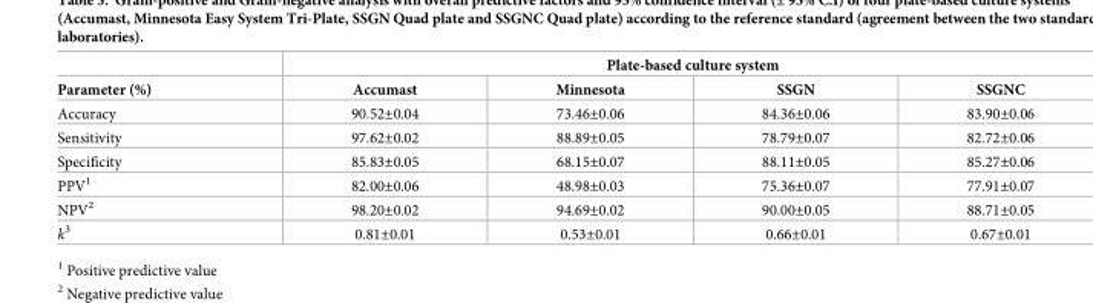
<table><thead><tr><td rowspan="2">Parameter (%)</td><td colspan="4">Plate-based culture system</td></tr><tr><td>Accumast</td><td>Minnesota</td><td>SSGN</td><td>SSGNC</td></tr></thead><tbody><tr><td>Accuracy</td><td>90.52±0.04</td><td>73.46±0.06</td><td>84.36±0.06</td><td>83.90±0.06</td></tr><tr><td>Sensitivity</td><td>97.62±0.02</td><td>88.89±0.05</td><td>78.79±0.07</td><td>82.72±0.06</td></tr><tr><td>Specificity</td><td>85.83±0.05</td><td>68.15±0.07</td><td>88.11±0.05</td><td>85.27±0.06</td></tr><tr><td>PPV<sup>1</sup></td><td>82.00±0.06</td><td>48.98±0.03</td><td>75.36±0.07</td><td>77.91±0.07</td></tr><tr><td>NPV<sup>2</sup></td><td>98.20±0.02</td><td>94.69±0.02</td><td>90.00±0.05</td><td>88.71±0.05</td></tr><tr><td>k<sup>3</sup></td><td>0.81±0.01</td><td>0.53±0.01</td><td>0.66±0.01</td><td>0.67±0.01</td></tr></tbody></table>